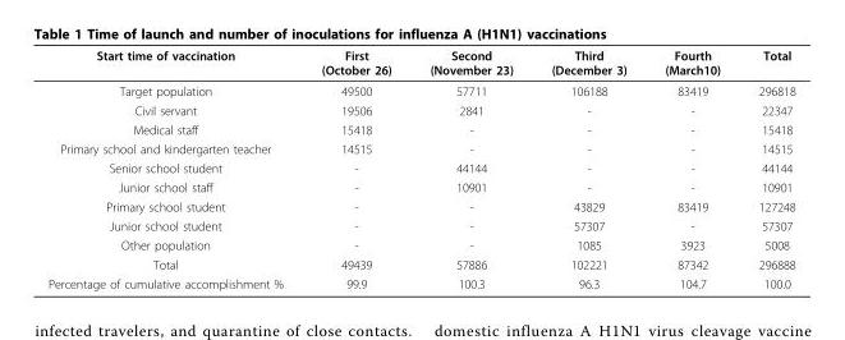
<table><thead><tr><td>Start time of vaccination</td><td>First (October 26)</td><td>Second (November 23)</td><td>Third (December 3)</td><td>Fourth (March10)</td><td>Total</td></tr></thead><tbody><tr><td>Target population</td><td>49500</td><td>57711</td><td>106188</td><td>83419</td><td>296818</td></tr><tr><td>Civil servant</td><td>19506</td><td>2841</td><td>-</td><td>-</td><td>22347</td></tr><tr><td>Medical staff</td><td>15418</td><td>-</td><td>-</td><td>-</td><td>15418</td></tr><tr><td>Primary school and kindergarten teacher</td><td>14515</td><td>-</td><td>-</td><td>-</td><td>14515</td></tr><tr><td>Senior school student</td><td>-</td><td>44144</td><td>-</td><td>-</td><td>44144</td></tr><tr><td>Junior school staff</td><td>-</td><td>10901</td><td>-</td><td>-</td><td>10901</td></tr><tr><td>Primary school student</td><td>-</td><td>-</td><td>43829</td><td>83419</td><td>127248</td></tr><tr><td>Junior school student</td><td>-</td><td>-</td><td>57307</td><td>-</td><td>57307</td></tr><tr><td>Other population</td><td>-</td><td>-</td><td>1085</td><td>3923</td><td>5008</td></tr><tr><td>Total</td><td>49439</td><td>57886</td><td>102221</td><td>87342</td><td>296888</td></tr><tr><td>Percentage of cumulative accomplishment %</td><td>99.9</td><td>100.3</td><td>96.3</td><td>104.7</td><td>100.0</td></tr></tbody></table>